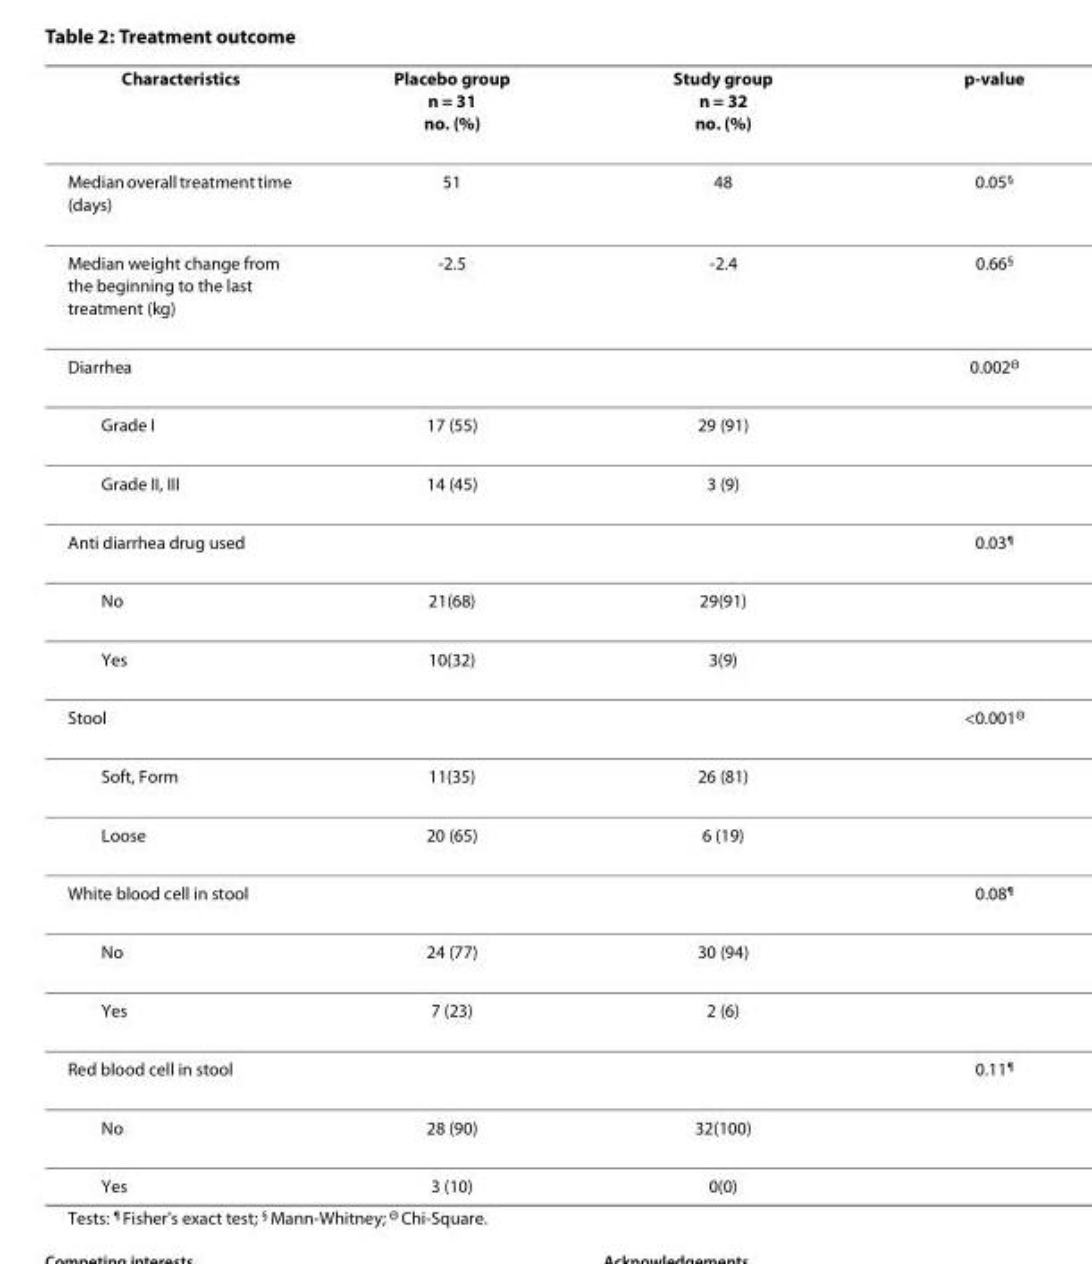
<table><thead><tr><td>Characteristics</td><td>Placebo group n = 31 no. (%)</td><td>Study group n = 32 no. (%)</td><td>p-value</td></tr></thead><tbody><tr><td>Median overall treatment time (days)</td><td>51</td><td>48</td><td>0.05<sup>§</sup></td></tr><tr><td>Median weight change from the beginning to the last treatment (kg)</td><td>-2.5</td><td>-2.4</td><td>0.66<sup>§</sup></td></tr><tr><td>Diarrhea</td><td></td><td></td><td>0.002<sup>Θ</sup></td></tr><tr><td>Grade I</td><td>17 (55)</td><td>29 (91)</td><td></td></tr><tr><td>Grade II, III</td><td>14 (45)</td><td>3 (9)</td><td></td></tr><tr><td>Anti diarrhea drug used</td><td></td><td></td><td>0.03<sup>¶</sup></td></tr><tr><td>No</td><td>21(68)</td><td>29(91)</td><td></td></tr><tr><td>Yes</td><td>10(32)</td><td>3(9)</td><td></td></tr><tr><td>Stool</td><td></td><td></td><td>&lt;0.001<sup>Θ</sup></td></tr><tr><td>Soft, Form</td><td>11(35)</td><td>26 (81)</td><td></td></tr><tr><td>Loose</td><td>20 (65)</td><td>6 (19)</td><td></td></tr><tr><td>White blood cell in stool</td><td></td><td></td><td>0.08<sup>¶</sup></td></tr><tr><td>No</td><td>24 (77)</td><td>30 (94)</td><td></td></tr><tr><td>Yes</td><td>7 (23)</td><td>2 (6)</td><td></td></tr><tr><td>Red blood cell in stool</td><td></td><td></td><td>0.11<sup>¶</sup></td></tr><tr><td>No</td><td>28 (90)</td><td>32(100)</td><td></td></tr><tr><td>Yes</td><td>3 (10)</td><td>0(0)</td><td></td></tr></tbody></table>